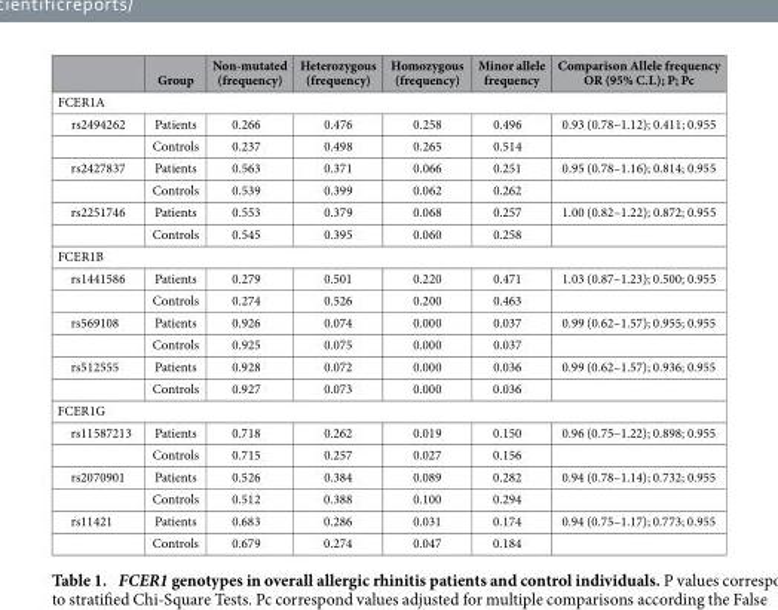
<table><thead><tr><td></td><td>Group</td><td>Non-mutated (frequency)</td><td>Heterozygous (frequency)</td><td>Homozygous (frequency)</td><td>Minor allele frequency</td><td>Comparison Allele frequency OR (95% C.I.); P; Pc</td></tr></thead><tbody><tr><td colspan="7">FCER1A</td></tr><tr><td rowspan="2">rs2494262</td><td>Patients</td><td>0.266</td><td>0.476</td><td>0.258</td><td>0.496</td><td>0.93 (0.78–1.12); 0.411; 0.955</td></tr><tr><td>Controls</td><td>0.237</td><td>0.498</td><td>0.265</td><td>0.514</td><td></td></tr><tr><td rowspan="2">rs2427837</td><td>Patients</td><td>0.563</td><td>0.371</td><td>0.066</td><td>0.251</td><td>0.95 (0.78–1.16); 0.814; 0.955</td></tr><tr><td>Controls</td><td>0.539</td><td>0.399</td><td>0.062</td><td>0.262</td><td></td></tr><tr><td rowspan="2">rs2251746</td><td>Patients</td><td>0.553</td><td>0.379</td><td>0.068</td><td>0.257</td><td>1.00 (0.82–1.22); 0.872; 0.955</td></tr><tr><td>Controls</td><td>0.545</td><td>0.395</td><td>0.060</td><td>0.258</td><td></td></tr><tr><td colspan="7">FCER1B</td></tr><tr><td rowspan="2">rs1441586</td><td>Patients</td><td>0.279</td><td>0.501</td><td>0.220</td><td>0.471</td><td>1.03 (0.87–1.23); 0.500; 0.955</td></tr><tr><td>Controls</td><td>0.274</td><td>0.526</td><td>0.200</td><td>0.463</td><td></td></tr><tr><td rowspan="2">rs569108</td><td>Patients</td><td>0.926</td><td>0.074</td><td>0.000</td><td>0.037</td><td>0.99 (0.62–1.57); 0.955; 0.955</td></tr><tr><td>Controls</td><td>0.925</td><td>0.075</td><td>0.000</td><td>0.037</td><td></td></tr><tr><td rowspan="2">rs512555</td><td>Patients</td><td>0.928</td><td>0.072</td><td>0.000</td><td>0.036</td><td>0.99 (0.62–1.57); 0.936; 0.955</td></tr><tr><td>Controls</td><td>0.927</td><td>0.073</td><td>0.000</td><td>0.036</td><td></td></tr><tr><td colspan="7">FCER1G</td></tr><tr><td rowspan="2">rs11587213</td><td>Patients</td><td>0.718</td><td>0.262</td><td>0.019</td><td>0.150</td><td>0.96 (0.75–1.22); 0.898; 0.955</td></tr><tr><td>Controls</td><td>0.715</td><td>0.257</td><td>0.027</td><td>0.156</td><td></td></tr><tr><td rowspan="2">rs2070901</td><td>Patients</td><td>0.526</td><td>0.384</td><td>0.089</td><td>0.282</td><td>0.94 (0.78–1.14); 0.732; 0.955</td></tr><tr><td>Controls</td><td>0.512</td><td>0.388</td><td>0.100</td><td>0.294</td><td></td></tr><tr><td rowspan="2">rs11421</td><td>Patients</td><td>0.683</td><td>0.286</td><td>0.031</td><td>0.174</td><td>0.94 (0.75–1.17); 0.773; 0.955</td></tr><tr><td>Controls</td><td>0.679</td><td>0.274</td><td>0.047</td><td>0.184</td><td></td></tr></tbody></table>